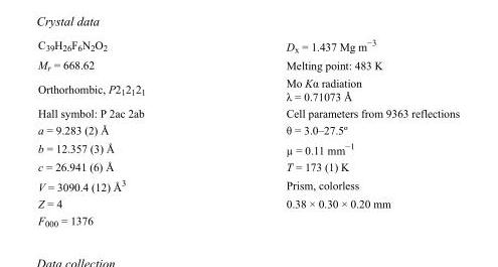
<table><tbody><tr><td>C<sub>39</sub>H<sub>26</sub>F<sub>6</sub>N<sub>2</sub>O<sub>2</sub></td><td>D<sub>x</sub> = 1.437 Mg m<sup>−3</sup></td></tr><tr><td>M<sub>r</sub> = 668.62</td><td>Melting point: 483 K</td></tr><tr><td>Orthorhombic, P2<sub>1</sub>2<sub>1</sub>2<sub>1</sub></td><td>Mo Kα radiation λ = 0.71073 Å</td></tr><tr><td>Hall symbol: P 2ac 2ab</td><td>Cell parameters from 9363 reflections</td></tr><tr><td>a = 9.283 (2) Å</td><td>θ = 3.0–27.5º</td></tr><tr><td>b = 12.357 (3) Å</td><td>µ = 0.11 mm<sup>−1</sup></td></tr><tr><td>c = 26.941 (6) Å</td><td>T = 173 (1) K</td></tr><tr><td>V = 3090.4 (12) Å<sup>3</sup></td><td>Prism, colorless</td></tr><tr><td>Z = 4</td><td>0.38 × 0.30 × 0.20 mm</td></tr><tr><td>F000 = 1376</td><td></td></tr></tbody></table>